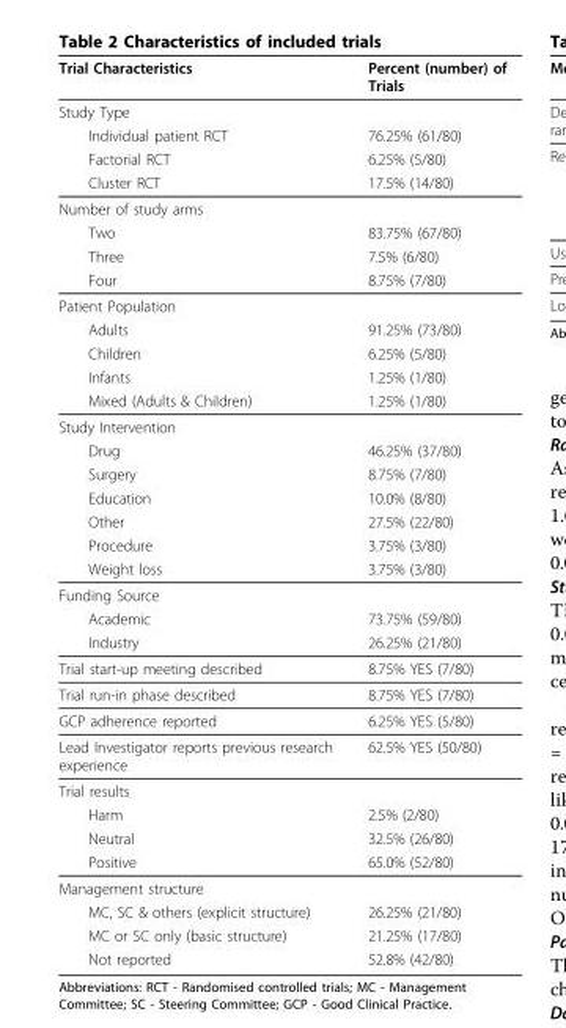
<table><thead><tr><td>Trial Characteristics</td><td>Percent (number) of Trials</td></tr></thead><tbody><tr><td colspan="2">Study Type</td></tr><tr><td>Individual patient RCT</td><td>76.25% (61/80)</td></tr><tr><td>Factorial RCT</td><td>6.25% (5/80)</td></tr><tr><td>Cluster RCT</td><td>17.5% (14/80)</td></tr><tr><td colspan="2">Number of study arms</td></tr><tr><td>Two</td><td>83.75% (67/80)</td></tr><tr><td>Three</td><td>7.5% (6/80)</td></tr><tr><td>Four</td><td>8.75% (7/80)</td></tr><tr><td colspan="2">Patient Population</td></tr><tr><td>Adults</td><td>91.25% (73/80)</td></tr><tr><td>Children</td><td>6.25% (5/80)</td></tr><tr><td>Infants</td><td>1.25% (1/80)</td></tr><tr><td>Mixed (Adults &amp; Children)</td><td>1.25% (1/80)</td></tr><tr><td colspan="2">Study Intervention</td></tr><tr><td>Drug</td><td>46.25% (37/80)</td></tr><tr><td>Surgery</td><td>8.75% (7/80)</td></tr><tr><td>Education</td><td>10.0% (8/80)</td></tr><tr><td>Other</td><td>27.5% (22/80)</td></tr><tr><td>Procedure</td><td>3.75% (3/80)</td></tr><tr><td>Weight loss</td><td>3.75% (3/80)</td></tr><tr><td colspan="2">Funding Source</td></tr><tr><td>Academic</td><td>73.75% (59/80)</td></tr><tr><td>Industry</td><td>26.25% (21/80)</td></tr><tr><td>Trial start-up meeting described</td><td>8.75% YES (7/80)</td></tr><tr><td>Trial run-in phase described</td><td>8.75% YES (7/80)</td></tr><tr><td>GCP adherence reported</td><td>6.25% YES (5/80)</td></tr><tr><td>Lead Investigator reports previous research experience</td><td>62.5% YES (50/80)</td></tr><tr><td colspan="2">Trial results</td></tr><tr><td>Harm</td><td>2.5% (2/80)</td></tr><tr><td>Neutral</td><td>32.5% (26/80)</td></tr><tr><td>Positive</td><td>65.0% (52/80)</td></tr><tr><td colspan="2">Management structure</td></tr><tr><td>MC, SC &amp; others (explicit structure)</td><td>26.25% (21/80)</td></tr><tr><td>MC or SC only (basic structure)</td><td>21.25% (17/80)</td></tr><tr><td>Not reported</td><td>52.8% (42/80)</td></tr></tbody></table>